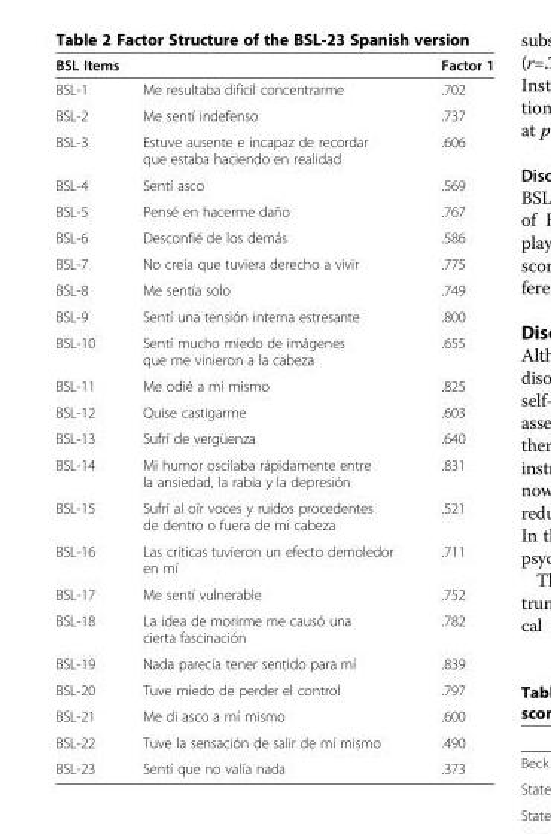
<table><thead><tr><td colspan="2">BSL Items</td><td rowspan="2">Factor 1 .702</td></tr><tr><td>BSL-1</td><td>Me resultaba difícil concentrarme</td></tr></thead><tbody><tr><td>BSL-2</td><td>Me sentí indefenso</td><td>.737</td></tr><tr><td>BSL-3</td><td>Estuve ausente e incapaz de recordar que estaba haciendo en realidad</td><td>.606</td></tr><tr><td>BSL-4</td><td>Sentí asco</td><td>.569</td></tr><tr><td>BSL-5</td><td>Pensé en hacerme daño</td><td>.767</td></tr><tr><td>BSL-6</td><td>Desconfié de los demás</td><td>.586</td></tr><tr><td>BSL-7</td><td>No creía que tuviera derecho a vivir</td><td>.775</td></tr><tr><td>BSL-8</td><td>Me sentía solo</td><td>.749</td></tr><tr><td>BSL-9</td><td>Sentí una tensión interna estresante</td><td>.800</td></tr><tr><td>BSL-10</td><td>Sentí mucho miedo de imágenes que me vinieron a la cabeza</td><td>.655</td></tr><tr><td>BSL-11</td><td>Me odié a mí mismo</td><td>.825</td></tr><tr><td>BSL-12</td><td>Quise castigarme</td><td>.603</td></tr><tr><td>BSL-13</td><td>Sufrí de vergüenza</td><td>.640</td></tr><tr><td>BSL-14</td><td>Mi humor oscilaba rápidamente entre la ansiedad, la rabia y la depresión</td><td>.831</td></tr><tr><td>BSL-15</td><td>Sufrí al oír voces y ruidos procedentes de dentro o fuera de mi cabeza</td><td>.521</td></tr><tr><td>BSL-16</td><td>Las críticas tuvieron un efecto demoledor en mí</td><td>.711</td></tr><tr><td>BSL-17</td><td>Me sentí vulnerable</td><td>.752</td></tr><tr><td>BSL-18</td><td>La idea de morirme me causó una cierta fascinación</td><td>.782</td></tr><tr><td>BSL-19</td><td>Nada parecía tener sentido para mí</td><td>.839</td></tr><tr><td>BSL-20</td><td>Tuve miedo de perder el control</td><td>.797</td></tr><tr><td>BSL-21</td><td>Me di asco a mí mismo</td><td>.600</td></tr><tr><td>BSL-22</td><td>Tuve la sensación de salir de mí mismo</td><td>.490</td></tr><tr><td>BSL-23</td><td>Sentí que no valía nada</td><td>.373</td></tr></tbody></table>